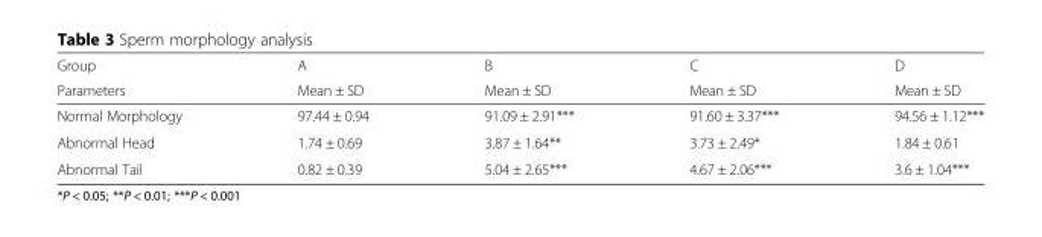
<table><thead><tr><td rowspan="2">Group Parameters</td><td rowspan="2">A Mean ± SD</td><td rowspan="2">B Mean ± SD</td><td rowspan="2">C Mean ± SD</td><td rowspan="2">D Mean ± SD</td></tr><tr></tr></thead><tbody><tr><td>Normal Morphology</td><td>97.44 ± 0.94</td><td>91.09 ± 2.91***</td><td>91.60 ± 3.37***</td><td>94.56 ± 1.12***</td></tr><tr><td>Abnormal Head</td><td>1.74 ± 0.69</td><td>3.87 ± 1.64**</td><td>3.73 ± 2.49*</td><td>1.84 ± 0.61</td></tr><tr><td>Abnormal Tail</td><td>0.82 ± 0.39</td><td>5.04 ± 2.65***</td><td>4.67 ± 2.06***</td><td>3.6 ± 1.04***</td></tr></tbody></table>